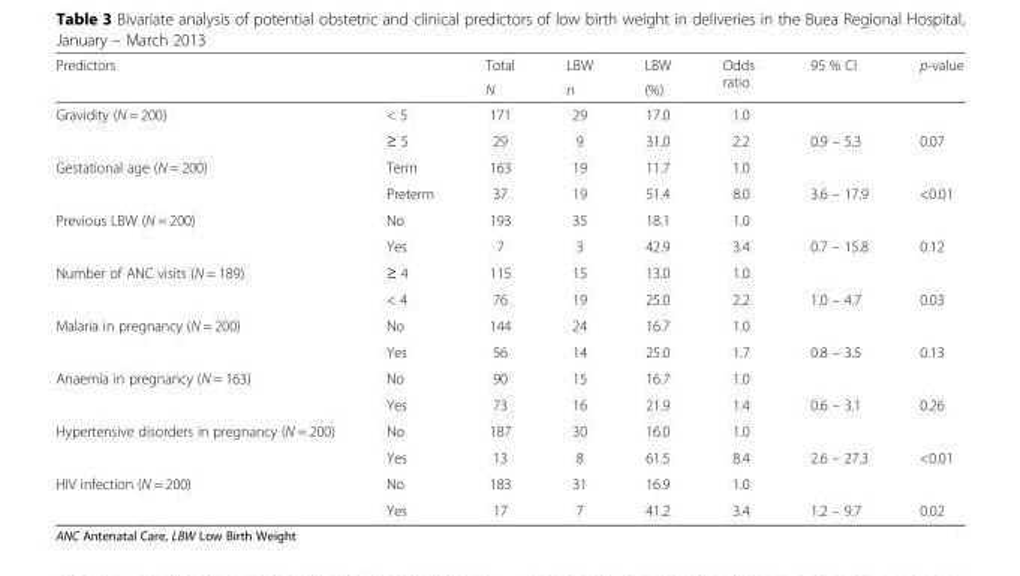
<table><thead><tr><td rowspan="2">Predictors</td><td rowspan="2"></td><td rowspan="2">Total N</td><td rowspan="2">LBW n</td><td rowspan="2">LBW (%)</td><td rowspan="2">Odds ratio</td><td rowspan="2">95 % CI</td><td rowspan="2">p-value</td></tr><tr></tr></thead><tbody><tr><td rowspan="2">Gravidity (N = 200)</td><td>&lt; 5</td><td>171</td><td>29</td><td>17.0</td><td>1.0</td><td></td><td></td></tr><tr><td>≥ 5</td><td>29</td><td>9</td><td>31.0</td><td>2.2</td><td>0.9 – 5.3</td><td>0.07</td></tr><tr><td rowspan="2">Gestational age (N = 200)</td><td>Term</td><td>163</td><td>19</td><td>11.7</td><td>1.0</td><td></td><td></td></tr><tr><td>Preterm</td><td>37</td><td>19</td><td>51.4</td><td>8.0</td><td>3.6 – 17.9</td><td>&lt;0.01</td></tr><tr><td rowspan="2">Previous LBW (N = 200)</td><td>No</td><td>193</td><td>35</td><td>18.1</td><td>1.0</td><td></td><td></td></tr><tr><td>Yes</td><td>7</td><td>3</td><td>42.9</td><td>3.4</td><td>0.7 – 15.8</td><td>0.12</td></tr><tr><td rowspan="2">Number of ANC visits (N = 189)</td><td>≥ 4</td><td>115</td><td>15</td><td>13.0</td><td>1.0</td><td></td><td></td></tr><tr><td>&lt; 4</td><td>76</td><td>19</td><td>25.0</td><td>2.2</td><td>1.0 – 4.7</td><td>0.03</td></tr><tr><td rowspan="2">Malaria in pregnancy (N = 200)</td><td>No</td><td>144</td><td>24</td><td>16.7</td><td>1.0</td><td></td><td></td></tr><tr><td>Yes</td><td>56</td><td>14</td><td>25.0</td><td>1.7</td><td>0.8 – 3.5</td><td>0.13</td></tr><tr><td rowspan="2">Anaemia in pregnancy (N = 163)</td><td>No</td><td>90</td><td>15</td><td>16.7</td><td>1.0</td><td></td><td></td></tr><tr><td>Yes</td><td>73</td><td>16</td><td>21.9</td><td>1.4</td><td>0.6 – 3.1</td><td>0.26</td></tr><tr><td rowspan="2">Hypertensive disorders in pregnancy (N = 200)</td><td>No</td><td>187</td><td>30</td><td>16.0</td><td>1.0</td><td></td><td></td></tr><tr><td>Yes</td><td>13</td><td>8</td><td>61.5</td><td>8.4</td><td>2.6 – 27.3</td><td>&lt;0.01</td></tr><tr><td rowspan="2">HIV infection (N = 200)</td><td>No</td><td>183</td><td>31</td><td>16.9</td><td>1.0</td><td></td><td></td></tr><tr><td>Yes</td><td>17</td><td>7</td><td>41.2</td><td>3.4</td><td>1.2 – 9.7</td><td>0.02</td></tr></tbody></table>